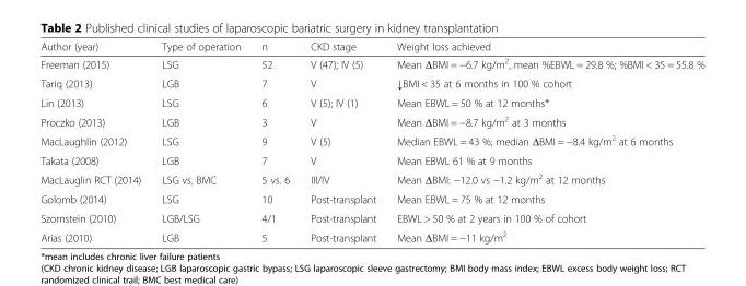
<table><thead><tr><td>Author (year)</td><td>Type of operation</td><td>n</td><td>CKD stage</td><td>Weight loss achieved</td></tr></thead><tbody><tr><td>Freeman (2015)</td><td>LSG</td><td>52</td><td>V (47); IV (5)</td><td>Mean ΔBMI = −6.7 kg/m<sup>2</sup>, mean %EBWL = 29.8 %; %BMI &lt; 35 = 55.8 %</td></tr><tr><td>Tariq (2013)</td><td>LGB</td><td>7</td><td>V</td><td>↓BMI &lt; 35 at 6 months in 100 % cohort</td></tr><tr><td>Lin (2013)</td><td>LSG</td><td>6</td><td>V (5); IV (1)</td><td>Mean EBWL = 50 % at 12 months*</td></tr><tr><td>Proczko (2013)</td><td>LGB</td><td>3</td><td>V</td><td>Mean ΔBMI = −8.7 kg/m<sup>2</sup> at 3 months</td></tr><tr><td>MacLaughlin (2012)</td><td>LSG</td><td>9</td><td>V (5)</td><td>Median EBWL = 43 %; median ΔBMI = −8.4 kg/m<sup>2</sup> at 6 months</td></tr><tr><td>Takata (2008)</td><td>LGB</td><td>7</td><td>V</td><td>Mean EBWL 61 % at 9 months</td></tr><tr><td>MacLauglin RCT (2014)</td><td>LSG vs. BMC</td><td>5 vs. 6</td><td>III/IV</td><td>Mean ΔBMI: −12.0 vs −1.2 kg/m<sup>2</sup> at 12 months</td></tr><tr><td>Golomb (2014)</td><td>LSG</td><td>10</td><td>Post-transplant</td><td>Mean EBWL = 75 % at 12 months</td></tr><tr><td>Szomstein (2010)</td><td>LGB/LSG</td><td>4/1</td><td>Post-transplant</td><td>EBWL &gt; 50 % at 2 years in 100 % of cohort</td></tr><tr><td>Arias (2010)</td><td>LGB</td><td>5</td><td>Post-transplant</td><td>Mean ΔBMI = −11 kg/m<sup>2</sup></td></tr></tbody></table>